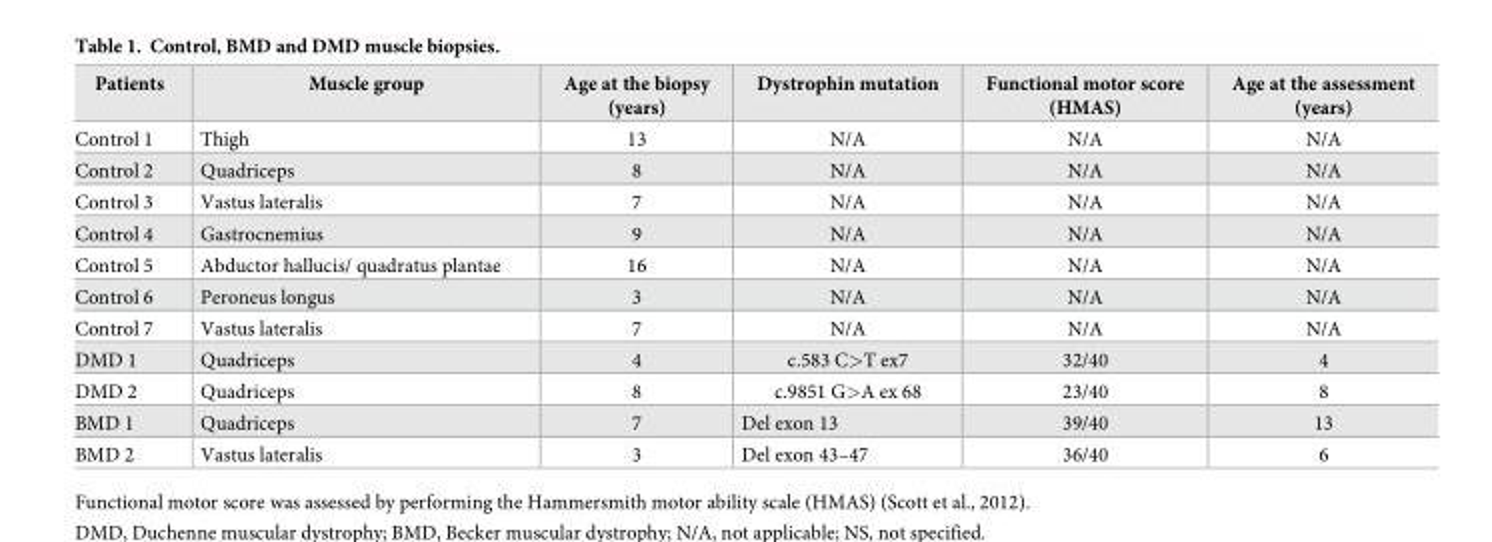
<table><thead><tr><td>Patients</td><td>Muscle group</td><td>Age at the biopsy (years)</td><td>Dystrophin mutation</td><td>Functional motor score (HMAS)</td><td>Age at the assessment (years)</td></tr></thead><tbody><tr><td>Control 1</td><td>Thigh</td><td>13</td><td>N/A</td><td>N/A</td><td>N/A</td></tr><tr><td>Control 2</td><td>Quadriceps</td><td>8</td><td>N/A</td><td>N/A</td><td>N/A</td></tr><tr><td>Control 3</td><td>Vastus lateralis</td><td>7</td><td>N/A</td><td>N/A</td><td>N/A</td></tr><tr><td>Control 4</td><td>Gastrocnemius</td><td>9</td><td>N/A</td><td>N/A</td><td>N/A</td></tr><tr><td>Control 5</td><td>Abductor hallucis/ quadratus plantae</td><td>16</td><td>N/A</td><td>N/A</td><td>N/A</td></tr><tr><td>Control 6</td><td>Peroneus longus</td><td>3</td><td>N/A</td><td>N/A</td><td>N/A</td></tr><tr><td>Control 7</td><td>Vastus lateralis</td><td>7</td><td>N/A</td><td>N/A</td><td>N/A</td></tr><tr><td>DMD 1</td><td>Quadriceps</td><td>4</td><td>c.583 C&gt;T ex7</td><td>32/40</td><td>4</td></tr><tr><td>DMD 2</td><td>Quadriceps</td><td>8</td><td>c.9851 G&gt;A ex 68</td><td>23/40</td><td>8</td></tr><tr><td>BMD 1</td><td>Quadriceps</td><td>7</td><td>Del exon 13</td><td>39/40</td><td>13</td></tr><tr><td>BMD 2</td><td>Vastus lateralis</td><td>3</td><td>Del exon 43–47</td><td>36/40</td><td>6</td></tr></tbody></table>